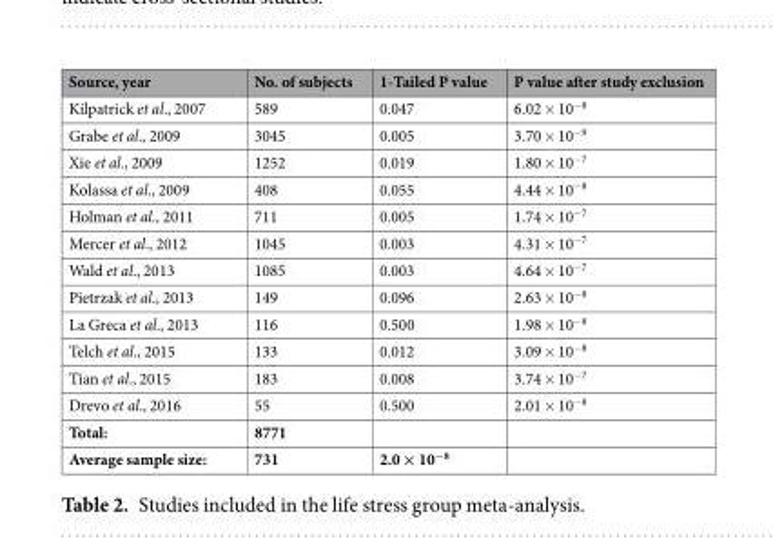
<table><thead><tr><td>Source, year</td><td>No. of subjects</td><td>1-Tailed P value</td><td>P value after study exclusion</td></tr></thead><tbody><tr><td>Kilpatrick et al., 2007</td><td>589</td><td>0.047</td><td>6.02 × 10<sup>−8</sup></td></tr><tr><td>Grabe et al., 2009</td><td>3045</td><td>0.005</td><td>3.70 × 10<sup>−9</sup></td></tr><tr><td>Xie et al., 2009</td><td>1252</td><td>0.019</td><td>1.80 × 10<sup>−7</sup></td></tr><tr><td>Kolassa et al., 2009</td><td>408</td><td>0.055</td><td>4.44 × 10<sup>−8</sup></td></tr><tr><td>Holman et al., 2011</td><td>711</td><td>0.005</td><td>1.74 × 10<sup>−7</sup></td></tr><tr><td>Mercer et al., 2012</td><td>1045</td><td>0.003</td><td>4.31 × 10<sup>−7</sup></td></tr><tr><td>Wald et al., 2013</td><td>1085</td><td>0.003</td><td>4.64 × 10<sup>−7</sup></td></tr><tr><td>Pietrzak et al., 2013</td><td>149</td><td>0.096</td><td>2.63 × 10<sup>−8</sup></td></tr><tr><td>La Greca et al., 2013</td><td>116</td><td>0.500</td><td>1.98 × 10<sup>−8</sup></td></tr><tr><td>Telch et al., 2015</td><td>133</td><td>0.012</td><td>3.09 × 10<sup>−8</sup></td></tr><tr><td>Tian et al., 2015</td><td>183</td><td>0.008</td><td>3.74 × 10<sup>−7</sup></td></tr><tr><td>Drevo et al., 2016</td><td>55</td><td>0.500</td><td>2.01 × 10<sup>−8</sup></td></tr><tr><td>Total:</td><td>8771</td><td></td><td></td></tr><tr><td>Average sample size:</td><td>731</td><td>2.0 × 10<sup>−8</sup></td><td></td></tr></tbody></table>